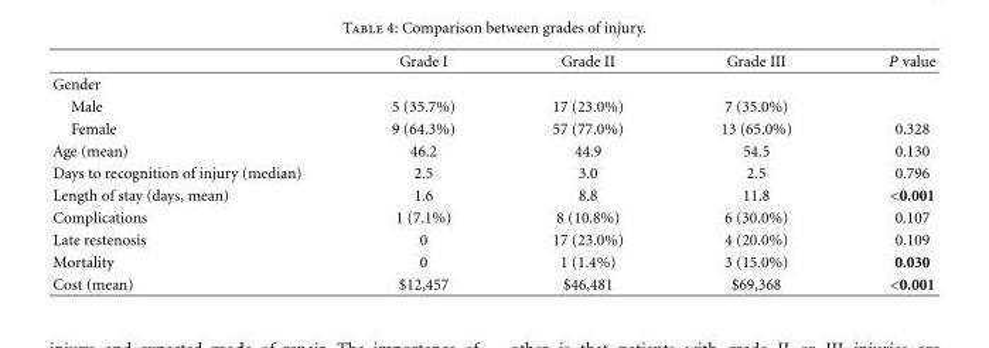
<table><thead><tr><td></td><td>Grade I</td><td>Grade II</td><td>Grade III</td><td>P value</td></tr></thead><tbody><tr><td colspan="5">Gender</td></tr><tr><td>Male</td><td>5 (35.7%)</td><td>17 (23.0%)</td><td>7 (35.0%)</td><td></td></tr><tr><td>Female</td><td>9 (64.3%)</td><td>57 (77.0%)</td><td>13 (65.0%)</td><td>0.328</td></tr><tr><td>Age (mean)</td><td>46.2</td><td>44.9</td><td>54.5</td><td>0.130</td></tr><tr><td>Days to recognition of injury (median)</td><td>2.5</td><td>3.0</td><td>2.5</td><td>0.796</td></tr><tr><td>Length of stay (days, mean)</td><td>1.6</td><td>8.8</td><td>11.8</td><td>&lt;0.001</td></tr><tr><td>Complications</td><td>1 (7.1%)</td><td>8 (10.8%)</td><td>6 (30.0%)</td><td>0.107</td></tr><tr><td>Late restenosis</td><td>0</td><td>17 (23.0%)</td><td>4 (20.0%)</td><td>0.109</td></tr><tr><td>Mortality</td><td>0</td><td>1 (1.4%)</td><td>3 (15.0%)</td><td>0.030</td></tr><tr><td>Cost (mean)</td><td>$12,457</td><td>$46,481</td><td>$69,368</td><td>&lt;0.001</td></tr></tbody></table>